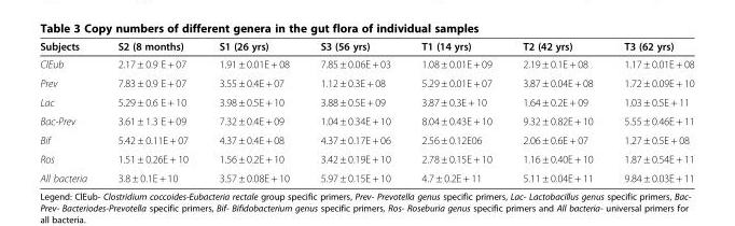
<table><thead><tr><td>Subjects</td><td>S2 (8 months)</td><td>S1 (26 yrs)</td><td>S3 (56 yrs)</td><td>T1 (14 yrs)</td><td>T2 (42 yrs)</td><td>T3 (62 yrs)</td></tr></thead><tbody><tr><td>ClEub</td><td>2.17 ± 0.9 E + 07</td><td>1.91 ± 0.01E + 08</td><td>7.85 ± 0.06E + 03</td><td>1.08 ± 0.01E + 09</td><td>2.19 ± 0.1E + 08</td><td>1.17 ± 0.01E + 08</td></tr><tr><td>Prev</td><td>7.83 ± 0.9 E + 07</td><td>3.55 ± 0.4E + 07</td><td>1.12 ± 0.3E + 08</td><td>5.29 ± 0.01E + 07</td><td>3.87 ± 0.04E + 08</td><td>1.72 ± 0.09E + 10</td></tr><tr><td>Lac</td><td>5.29 ± 0.6 E + 10</td><td>3.98 ± 0.5E + 10</td><td>3.88 ± 0.5E + 09</td><td>3.87 ± 0.3E + 10</td><td>1.64 ± 0.2E + 09</td><td>1.03 ± 0.5E + 11</td></tr><tr><td>Bac-Prev</td><td>3.61 ± 1.3 E + 09</td><td>7.32 ± 0.4E + 09</td><td>1.04 ± 0.34E + 10</td><td>8.04 ± 0.43E + 10</td><td>9.32 ± 0.82E + 10</td><td>5.55 ± 0.46E + 11</td></tr><tr><td>Bif</td><td>5.42 ± 0.11E + 07</td><td>4.37 ± 0.4E + 08</td><td>4.37 ± 0.17E + 06</td><td>2.56 ± 0.12E06</td><td>2.06 ± 0.6E + 07</td><td>1.27 ± 0.5E + 08</td></tr><tr><td>Ros</td><td>1.51 ± 0.26E + 10</td><td>1.56 ± 0.2E + 10</td><td>3.42 ± 0.19E + 10</td><td>2.78 ± 0.15E + 10</td><td>1.16 ± 0.40E + 10</td><td>1.87 ± 0.54E + 11</td></tr><tr><td>All bacteria</td><td>3.8 ± 0.1E + 10</td><td>3.57 ± 0.08E + 10</td><td>5.97 ± 0.15E + 10</td><td>4.7 ± 0.2E + 11</td><td>5.11 ± 0.04E + 11</td><td>9.84 ± 0.03E + 11</td></tr></tbody></table>